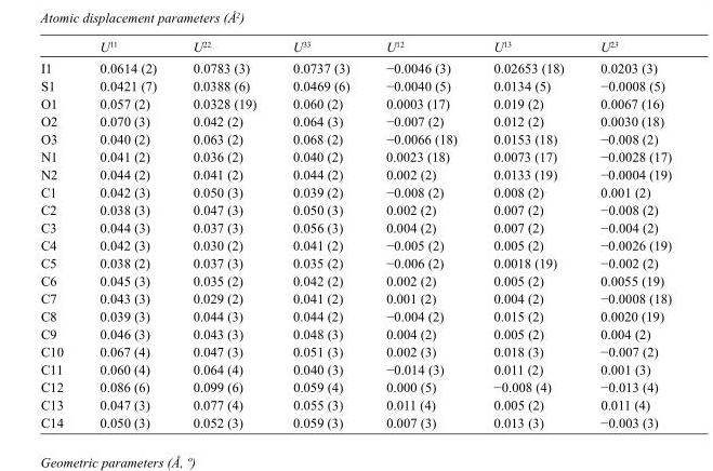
<table><thead><tr><td></td><td>U<sup>11</sup></td><td>U<sup>22</sup></td><td>U<sup>33</sup></td><td>U<sup>12</sup></td><td>U<sup>13</sup></td><td>U<sup>23</sup></td></tr></thead><tbody><tr><td>I1</td><td>0.0614 (2)</td><td>0.0783 (3)</td><td>0.0737 (3)</td><td>−0.0046 (3)</td><td>0.02653 (18)</td><td>0.0203 (3)</td></tr><tr><td>S1</td><td>0.0421 (7)</td><td>0.0388 (6)</td><td>0.0469 (6)</td><td>−0.0040 (5)</td><td>0.0134 (5)</td><td>−0.0008 (5)</td></tr><tr><td>O1</td><td>0.057 (2)</td><td>0.0328 (19)</td><td>0.060 (2)</td><td>0.0003 (17)</td><td>0.019 (2)</td><td>0.0067 (16)</td></tr><tr><td>O2</td><td>0.070 (3)</td><td>0.042 (2)</td><td>0.064 (3)</td><td>−0.007 (2)</td><td>0.012 (2)</td><td>0.0030 (18)</td></tr><tr><td>O3</td><td>0.040 (2)</td><td>0.063 (2)</td><td>0.068 (2)</td><td>−0.0066 (18)</td><td>0.0153 (18)</td><td>−0.008 (2)</td></tr><tr><td>N1</td><td>0.041 (2)</td><td>0.036 (2)</td><td>0.040 (2)</td><td>0.0023 (18)</td><td>0.0073 (17)</td><td>−0.0028 (17)</td></tr><tr><td>N2</td><td>0.044 (2)</td><td>0.041 (2)</td><td>0.044 (2)</td><td>0.002 (2)</td><td>0.0133 (19)</td><td>−0.0004 (19)</td></tr><tr><td>C1</td><td>0.042 (3)</td><td>0.050 (3)</td><td>0.039 (2)</td><td>−0.008 (2)</td><td>0.008 (2)</td><td>0.001 (2)</td></tr><tr><td>C2</td><td>0.038 (3)</td><td>0.047 (3)</td><td>0.050 (3)</td><td>0.002 (2)</td><td>0.007 (2)</td><td>−0.008 (2)</td></tr><tr><td>C3</td><td>0.044 (3)</td><td>0.037 (3)</td><td>0.056 (3)</td><td>0.004 (2)</td><td>0.007 (2)</td><td>−0.004 (2)</td></tr><tr><td>C4</td><td>0.042 (3)</td><td>0.030 (2)</td><td>0.041 (2)</td><td>−0.005 (2)</td><td>0.005 (2)</td><td>−0.0026 (19)</td></tr><tr><td>C5</td><td>0.038 (2)</td><td>0.037 (3)</td><td>0.035 (2)</td><td>−0.006 (2)</td><td>0.0018 (19)</td><td>−0.002 (2)</td></tr><tr><td>C6</td><td>0.045 (3)</td><td>0.035 (2)</td><td>0.042 (2)</td><td>0.002 (2)</td><td>0.005 (2)</td><td>0.0055 (19)</td></tr><tr><td>C7</td><td>0.043 (3)</td><td>0.029 (2)</td><td>0.041 (2)</td><td>0.001 (2)</td><td>0.004 (2)</td><td>−0.0008 (18)</td></tr><tr><td>C8</td><td>0.039 (3)</td><td>0.044 (3)</td><td>0.044 (2)</td><td>−0.004 (2)</td><td>0.015 (2)</td><td>0.0020 (19)</td></tr><tr><td>C9</td><td>0.046 (3)</td><td>0.043 (3)</td><td>0.048 (3)</td><td>0.004 (2)</td><td>0.005 (2)</td><td>0.004 (2)</td></tr><tr><td>C10</td><td>0.067 (4)</td><td>0.047 (3)</td><td>0.051 (3)</td><td>0.002 (3)</td><td>0.018 (3)</td><td>−0.007 (2)</td></tr><tr><td>C11</td><td>0.060 (4)</td><td>0.064 (4)</td><td>0.040 (3)</td><td>−0.014 (3)</td><td>0.011 (2)</td><td>0.001 (3)</td></tr><tr><td>C12</td><td>0.086 (6)</td><td>0.099 (6)</td><td>0.059 (4)</td><td>0.000 (5)</td><td>−0.008 (4)</td><td>−0.013 (4)</td></tr><tr><td>C13</td><td>0.047 (3)</td><td>0.077 (4)</td><td>0.055 (3)</td><td>0.011 (4)</td><td>0.005 (2)</td><td>0.011 (4)</td></tr><tr><td>C14</td><td>0.050 (3)</td><td>0.052 (3)</td><td>0.059 (3)</td><td>0.007 (3)</td><td>0.013 (3)</td><td>−0.003 (3)</td></tr></tbody></table>